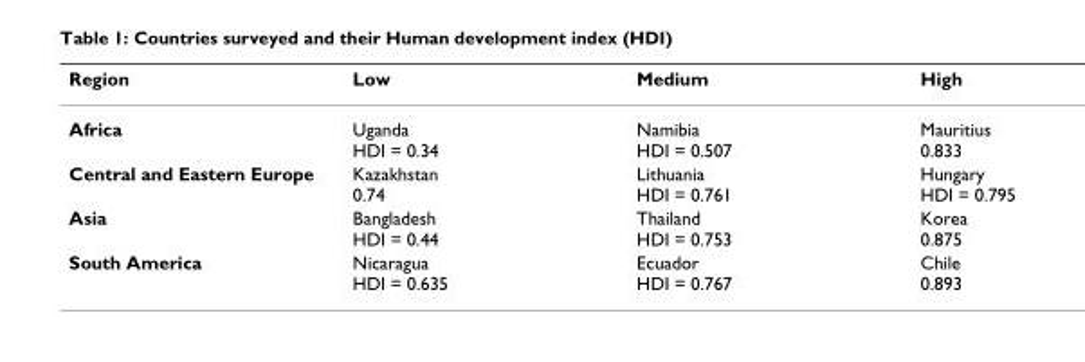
<table><thead><tr><td>Region</td><td>Low</td><td>Medium</td><td>High</td></tr></thead><tbody><tr><td>Africa</td><td>Uganda HDI = 0.34</td><td>Namibia HDI = 0.507</td><td>Mauritius 0.833</td></tr><tr><td>Central and Eastern Europe</td><td>Kazakhstan 0.74</td><td>Lithuania HDI = 0.761</td><td>Hungary HDI = 0.795</td></tr><tr><td>Asia</td><td>Bangladesh HDI = 0.44</td><td>Thailand HDI = 0.753</td><td>Korea 0.875</td></tr><tr><td>South America</td><td>Nicaragua HDI = 0.635</td><td>Ecuador HDI = 0.767</td><td>Chile 0.893</td></tr></tbody></table>